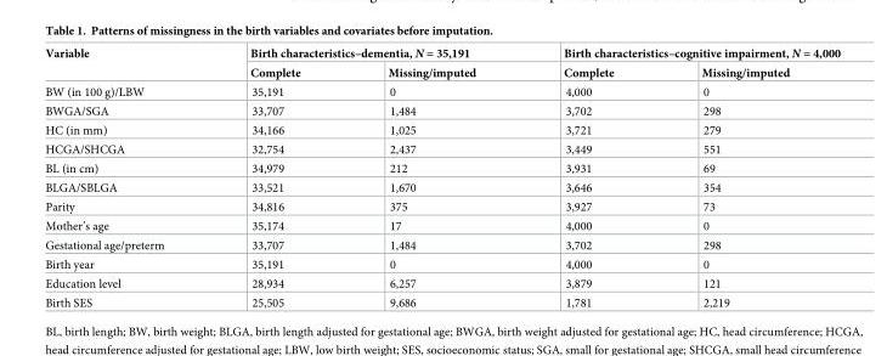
<table><thead><tr><td rowspan="2">Variable</td><td colspan="2">Birth characteristics–dementia, N = 35,191</td><td colspan="2">Birth characteristics–cognitive impairment, N = 4,000</td></tr><tr><td>Complete</td><td>Missing/imputed</td><td>Complete</td><td>Missing/imputed</td></tr></thead><tbody><tr><td>BW (in 100 g)/LBW</td><td>35,191</td><td>0</td><td>4,000</td><td>0</td></tr><tr><td>BWGA/SGA</td><td>33,707</td><td>1,484</td><td>3,702</td><td>298</td></tr><tr><td>HC (in mm)</td><td>34,166</td><td>1,025</td><td>3,721</td><td>279</td></tr><tr><td>HCGA/SHCGA</td><td>32,754</td><td>2,437</td><td>3,449</td><td>551</td></tr><tr><td>BL (in cm)</td><td>34,979</td><td>212</td><td>3,931</td><td>69</td></tr><tr><td>BLGA/SBLGA</td><td>33,521</td><td>1,670</td><td>3,646</td><td>354</td></tr><tr><td>Parity</td><td>34,816</td><td>375</td><td>3,927</td><td>73</td></tr><tr><td>Mother’s age</td><td>35,174</td><td>17</td><td>4,000</td><td>0</td></tr><tr><td>Gestational age/preterm</td><td>33,707</td><td>1,484</td><td>3,702</td><td>298</td></tr><tr><td>Birth year</td><td>35,191</td><td>0</td><td>4,000</td><td>0</td></tr><tr><td>Education level</td><td>28,934</td><td>6,257</td><td>3,879</td><td>121</td></tr><tr><td>Birth SES</td><td>25,505</td><td>9,686</td><td>1,781</td><td>2,219</td></tr></tbody></table>